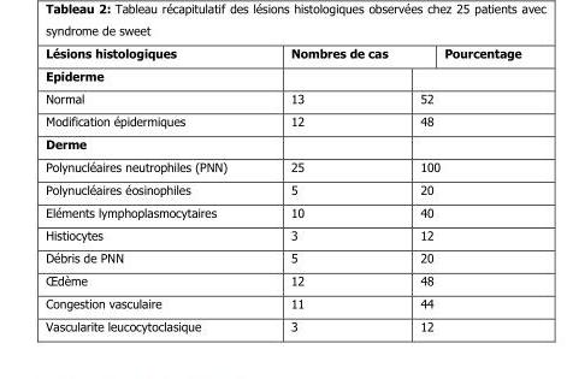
<table><thead><tr><td>Lésions histologiques</td><td>Nombres de cas</td><td>Pourcentage</td></tr></thead><tbody><tr><td colspan="3">Epiderme</td></tr><tr><td>Normal</td><td>13</td><td>52</td></tr><tr><td>Modification épidermiques</td><td>12</td><td>48</td></tr><tr><td colspan="3">Derme</td></tr><tr><td>Polynucléaires neutrophiles (PNN)</td><td>25</td><td>100</td></tr><tr><td>Polynucléaires éosinophiles</td><td>5</td><td>20</td></tr><tr><td>Eléments lymphoplasmocytaires</td><td>10</td><td>40</td></tr><tr><td>Histiocytes</td><td>3</td><td>12</td></tr><tr><td>Débris de PNN</td><td>5</td><td>20</td></tr><tr><td>Œdème</td><td>12</td><td>48</td></tr><tr><td>Congestion vasculaire</td><td>11</td><td>44</td></tr><tr><td>Vascularite leucocytoclasique</td><td>3</td><td>12</td></tr></tbody></table>